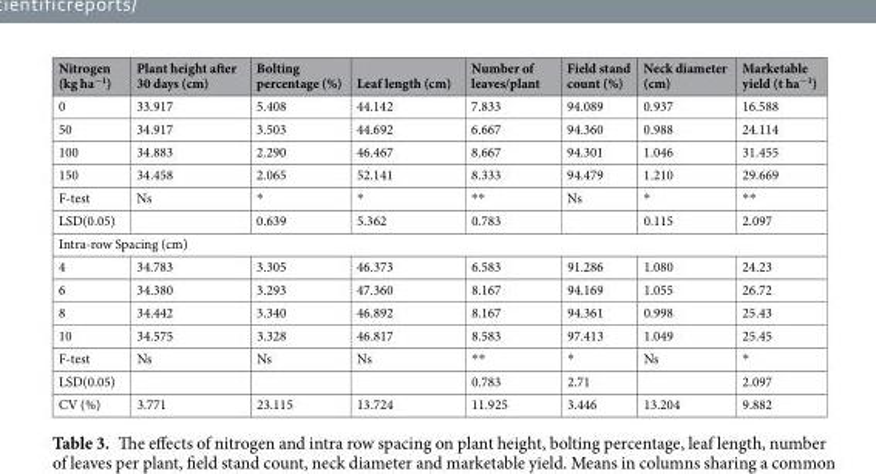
<table><thead><tr><td>Nitrogen (kg ha<sup>−1</sup>)</td><td>Plant height after 30 days (cm)</td><td>Bolting percentage (%)</td><td>Leaf length (cm)</td><td>Number of leaves/plant</td><td>Field stand count (%)</td><td>Neck diameter (cm)</td><td>Marketable yield (t ha<sup>−1</sup>)</td></tr></thead><tbody><tr><td>0</td><td>33.917</td><td>5.408</td><td>44.142</td><td>7.833</td><td>94.089</td><td>0.937</td><td>16.588</td></tr><tr><td>50</td><td>34.917</td><td>3.503</td><td>44.692</td><td>6.667</td><td>94.360</td><td>0.988</td><td>24.114</td></tr><tr><td>100</td><td>34.883</td><td>2.290</td><td>46.467</td><td>8.667</td><td>94.301</td><td>1.046</td><td>31.455</td></tr><tr><td>150</td><td>34.458</td><td>2.065</td><td>52.141</td><td>8.333</td><td>94.479</td><td>1.210</td><td>29.669</td></tr><tr><td>F-test</td><td>Ns</td><td>*</td><td>*</td><td>**</td><td>Ns</td><td>*</td><td>**</td></tr><tr><td>LSD(0.05)</td><td></td><td>0.639</td><td>5.362</td><td>0.783</td><td></td><td>0.115</td><td>2.097</td></tr><tr><td colspan="8">Intra-row Spacing (cm)</td></tr><tr><td>4</td><td>34.783</td><td>3.305</td><td>46.373</td><td>6.583</td><td>91.286</td><td>1.080</td><td>24.23</td></tr><tr><td>6</td><td>34.380</td><td>3.293</td><td>47.360</td><td>8.167</td><td>94.169</td><td>1.055</td><td>26.72</td></tr><tr><td>8</td><td>34.442</td><td>3.340</td><td>46.892</td><td>8.167</td><td>94.361</td><td>0.998</td><td>25.43</td></tr><tr><td>10</td><td>34.575</td><td>3.328</td><td>46.817</td><td>8.583</td><td>97.413</td><td>1.049</td><td>25.45</td></tr><tr><td>F-test</td><td>Ns</td><td>Ns</td><td>Ns</td><td>**</td><td>*</td><td>Ns</td><td>*</td></tr><tr><td>LSD(0.05)</td><td></td><td></td><td></td><td>0.783</td><td>2.71</td><td></td><td>2.097</td></tr><tr><td>CV (%)</td><td>3.771</td><td>23.115</td><td>13.724</td><td>11.925</td><td>3.446</td><td>13.204</td><td>9.882</td></tr></tbody></table>